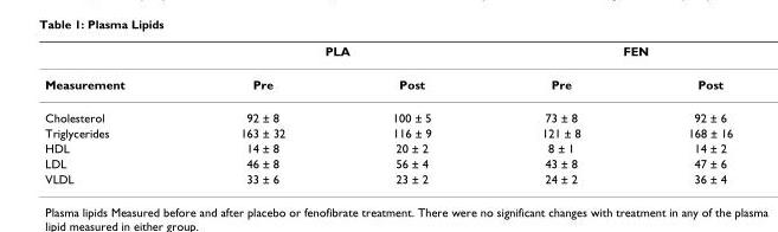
<table><thead><tr><td rowspan="2">Measurement</td><td colspan="2">PLA</td><td colspan="2">FEN</td></tr><tr><td>Pre</td><td>Post</td><td>Pre</td><td>Post</td></tr></thead><tbody><tr><td>Cholesterol</td><td>92 ± 8</td><td>100 ± 5</td><td>73 ± 8</td><td>92 ± 6</td></tr><tr><td>Triglycerides</td><td>163 ± 32</td><td>116 ± 9</td><td>121 ± 8</td><td>168 ± 16</td></tr><tr><td>HDL</td><td>14 ± 8</td><td>20 ± 2</td><td>8 ± 1</td><td>14 ± 2</td></tr><tr><td>LDL</td><td>46 ± 8</td><td>56 ± 4</td><td>43 ± 8</td><td>47 ± 6</td></tr><tr><td>VLDL</td><td>33 ± 6</td><td>23 ± 2</td><td>24 ± 2</td><td>36 ± 4</td></tr></tbody></table>